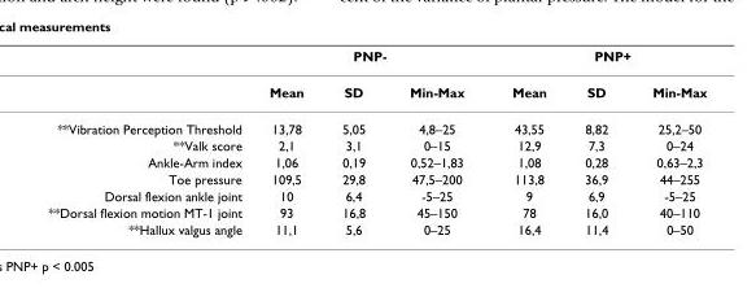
<table><thead><tr><td rowspan="2"></td><td colspan="3">PNP-</td><td colspan="3">PNP+</td></tr><tr><td>Mean</td><td>SD</td><td>Min-Max</td><td>Mean</td><td>SD</td><td>Min-Max</td></tr></thead><tbody><tr><td>**Vibration Perception Threshold</td><td>13,78</td><td>5,05</td><td>4,8–25</td><td>43,55</td><td>8,82</td><td>25,2–50</td></tr><tr><td>**Valk score</td><td>2,1</td><td>3,1</td><td>0–15</td><td>12,9</td><td>7,3</td><td>0–24</td></tr><tr><td>Ankle-Arm index</td><td>1,06</td><td>0,19</td><td>0,52–1,83</td><td>1,08</td><td>0,28</td><td>0,63–2,3</td></tr><tr><td>Toe pressure</td><td>109,5</td><td>29,8</td><td>47,5–200</td><td>113,8</td><td>36,9</td><td>44–255</td></tr><tr><td>Dorsal flexion ankle joint</td><td>10</td><td>6,4</td><td>-5–25</td><td>9</td><td>6,9</td><td>-5–25</td></tr><tr><td>**Dorsal flexion motion MT-1 joint</td><td>93</td><td>16,8</td><td>45–150</td><td>78</td><td>16,0</td><td>40–110</td></tr><tr><td>**Hallux valgus angle</td><td>11,1</td><td>5,6</td><td>0–25</td><td>16,4</td><td>11,4</td><td>0–50</td></tr></tbody></table>